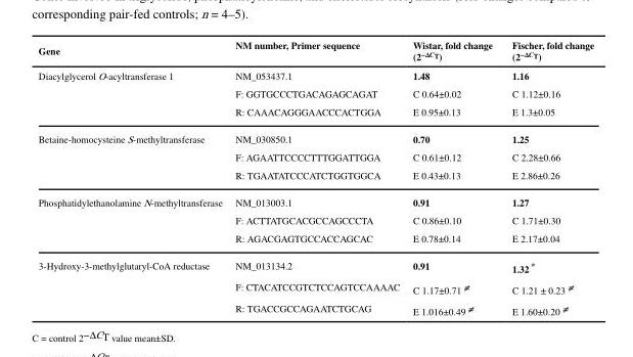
<table><thead><tr><td>Gene</td><td>NM number, Primer sequence</td><td>Wistar, fold change (2<sup>−ΔC<sub>T</sub></sup>)</td><td>Fischer, fold change (2<sup>−ΔC<sub>T</sub></sup>)</td></tr></thead><tbody><tr><td rowspan="3">Diacylglycerol O-acyltransferase 1</td><td>NM_053437.1</td><td>1.48</td><td>1.16</td></tr><tr><td>F: GGTGCCCTGACAGAGCAGAT</td><td>C 0.64±0.02</td><td>C 1.12±0.16</td></tr><tr><td>R: CAAACAGGGAACCCACTGGA</td><td>E 0.95±0.13</td><td>E 1.3±0.05</td></tr><tr><td rowspan="3">Betaine-homocysteine S-methyltransferase</td><td>NM_030850.1</td><td>0.70</td><td>1.25</td></tr><tr><td>F: AGAATTCCCCTTTGGATTGGA</td><td>C 0.61±0.12</td><td>C 2.28±0.66</td></tr><tr><td>R: TGAATATCCCATCTGGTGGCA</td><td>E 0.43±0.13</td><td>E 2.86±0.26</td></tr><tr><td rowspan="3">Phosphatidylethanolamine N-methyltransferase</td><td>NM_013003.1</td><td>0.91</td><td>1.27</td></tr><tr><td>F: ACTTATGCACGCCAGCCCTA</td><td>C 0.86±0.10</td><td>C 1.71±0.30</td></tr><tr><td>R: AGACGAGTGCCACCAGCAC</td><td>E 0.78±0.14</td><td>E 2.17±0.04</td></tr><tr><td rowspan="3">3-Hydroxy-3-methylglutaryl-CoA reductase</td><td>NM_013134.2</td><td>0.91</td><td>1.32*</td></tr><tr><td>F: CTACATCCGTCTCCAGTCCAAAAC</td><td>C 1.17±0.71≠</td><td>C 1.21 ± 0.23≠</td></tr><tr><td>R: TGACCGCCAGAATCTGCAG</td><td>E 1.016±0.49≠</td><td>E 1.60±0.20≠</td></tr></tbody></table>